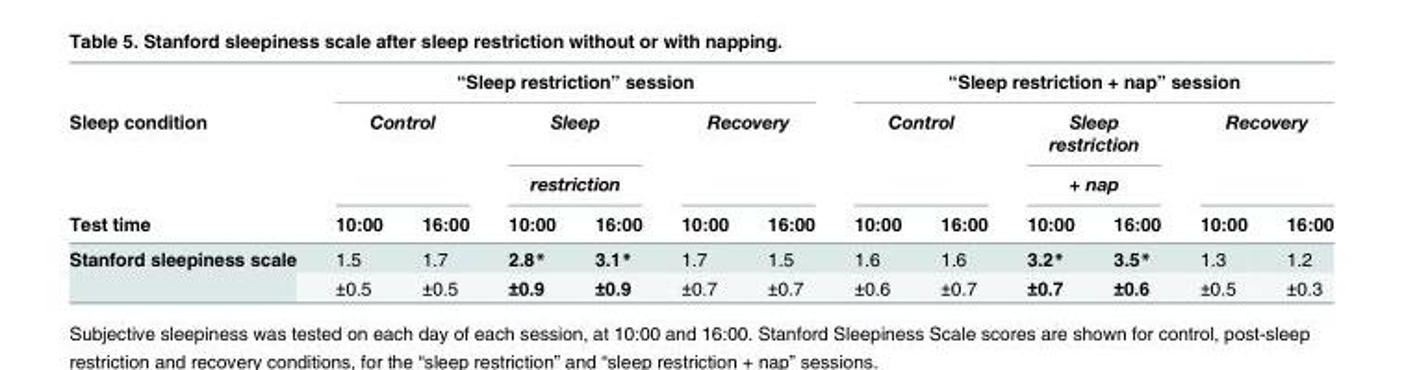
<table><thead><tr><td rowspan="4">Sleep condition Test time</td><td colspan="6">“Sleep restriction” session</td><td colspan="6">“Sleep restriction + nap” session</td></tr><tr><td rowspan="2" colspan="2">Control</td><td rowspan="2" colspan="2">Sleep restriction</td><td rowspan="2" colspan="2">Recovery</td><td rowspan="2" colspan="2">Control</td><td rowspan="2" colspan="2">Sleep restriction + nap</td><td rowspan="2" colspan="2">Recovery</td></tr><tr></tr><tr><td>10:00</td><td>16:00</td><td>10:00</td><td>16:00</td><td>10:00</td><td>16:00</td><td>10:00</td><td>16:00</td><td>10:00</td><td>16:00</td><td>10:00</td><td>16:00</td></tr></thead><tbody><tr><td rowspan="2">Stanford sleepiness scale</td><td>1.5</td><td>1.7</td><td>2.8*</td><td>3.1*</td><td>1.7</td><td>1.5</td><td>1.6</td><td>1.6</td><td>3.2*</td><td>3.5*</td><td>1.3</td><td>1.2</td></tr><tr><td>±0.5</td><td>±0.5</td><td>±0.9</td><td>±0.9</td><td>±0.7</td><td>±0.7</td><td>±0.6</td><td>±0.7</td><td>±0.7</td><td>±0.6</td><td>±0.5</td><td>±0.3</td></tr></tbody></table>